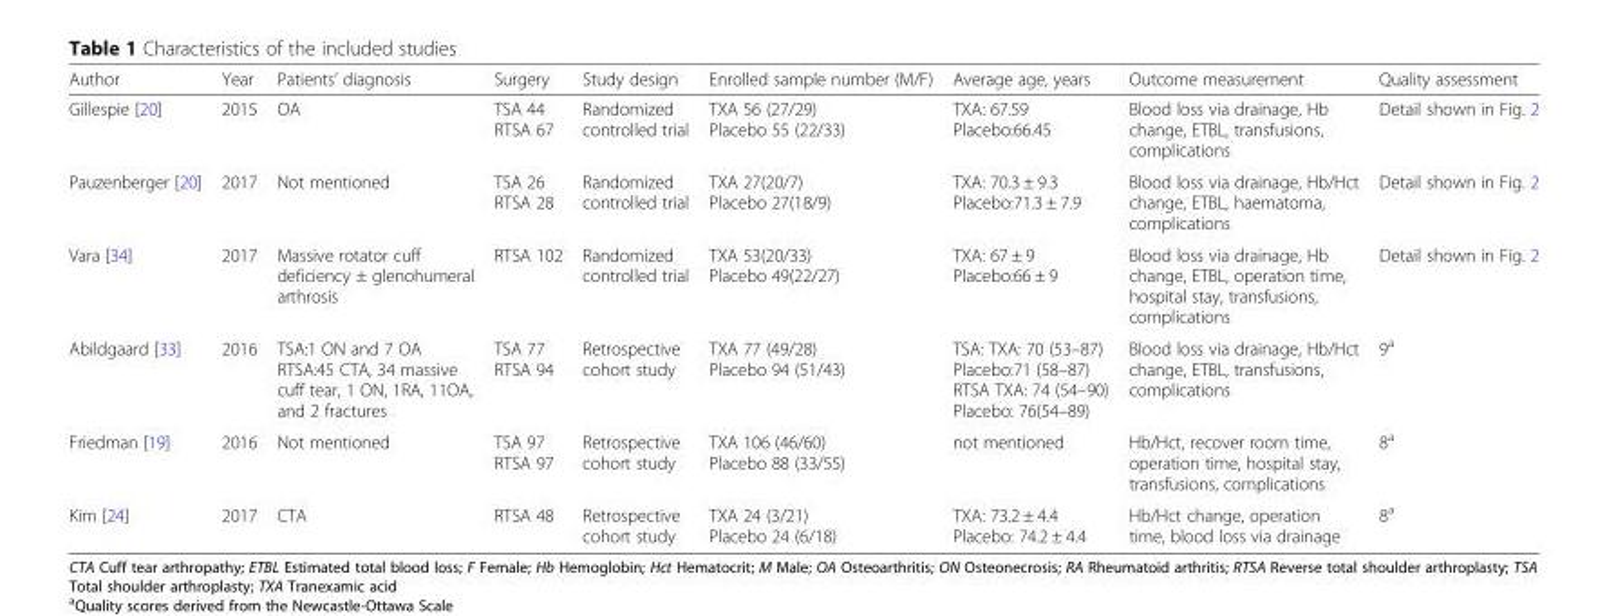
<table><thead><tr><td>Author</td><td>Year</td><td>Patients’ diagnosis</td><td>Surgery</td><td>Study design</td><td>Enrolled sample number (M/F)</td><td>Average age, years</td><td>Outcome measurement</td><td>Quality assessment</td></tr></thead><tbody><tr><td>Gillespie [20]</td><td>2015</td><td>OA</td><td>TSA 44 RTSA 67</td><td>Randomized controlled trial</td><td>TXA 56 (27/29) Placebo 55 (22/33)</td><td>TXA: 67.59 Placebo:66.45</td><td>Blood loss via drainage, Hb change, ETBL, transfusions, complications</td><td>Detail shown in Fig. 2</td></tr><tr><td>Pauzenberger [20]</td><td>2017</td><td>Not mentioned</td><td>TSA 26 RTSA 28</td><td>Randomized controlled trial</td><td>TXA 27(20/7) Placebo 27(18/9)</td><td>TXA: 70.3 ± 9.3 Placebo:71.3 ± 7.9</td><td>Blood loss via drainage, Hb/Hct change, ETBL, haematoma, complications</td><td>Detail shown in Fig. 2</td></tr><tr><td>Vara [34]</td><td>2017</td><td>Massive rotator cuff deficiency ± glenohumeral arthrosis</td><td>RTSA 102</td><td>Randomized controlled trial</td><td>TXA 53(20/33) Placebo 49(22/27)</td><td>TXA: 67 ± 9 Placebo:66 ± 9</td><td>Blood loss via drainage, Hb change, ETBL, operation time, hospital stay, transfusions, complications</td><td>Detail shown in Fig. 2</td></tr><tr><td>Abildgaard [33]</td><td>2016</td><td>TSA:1 ON and 7 OA RTSA:45 CTA, 34 massive cuff tear, 1 ON, 1RA, 11OA, and 2 fractures</td><td>TSA 77 RTSA 94</td><td>Retrospective cohort study</td><td>TXA 77 (49/28) Placebo 94 (51/43)</td><td>TSA: TXA: 70 (53–87) Placebo:71 (58–87) RTSA TXA: 74 (54–90) Placebo: 76(54–89)</td><td>Blood loss via drainage, Hb/Hct change, ETBL, transfusions, complications</td><td>9<sup>a</sup></td></tr><tr><td>Friedman [19]</td><td>2016</td><td>Not mentioned</td><td>TSA 97 RTSA 97</td><td>Retrospective cohort study</td><td>TXA 106 (46/60) Placebo 88 (33/55)</td><td>not mentioned</td><td>Hb/Hct, recover room time, operation time, hospital stay, transfusions, complications</td><td>8<sup>a</sup></td></tr><tr><td>Kim [24]</td><td>2017</td><td>CTA</td><td>RTSA 48</td><td>Retrospective cohort study</td><td>TXA 24 (3/21) Placebo 24 (6/18)</td><td>TXA: 73.2 ± 4.4 Placebo: 74.2 ± 4.4</td><td>Hb/Hct change, operation time, blood loss via drainage</td><td>8<sup>a</sup></td></tr></tbody></table>